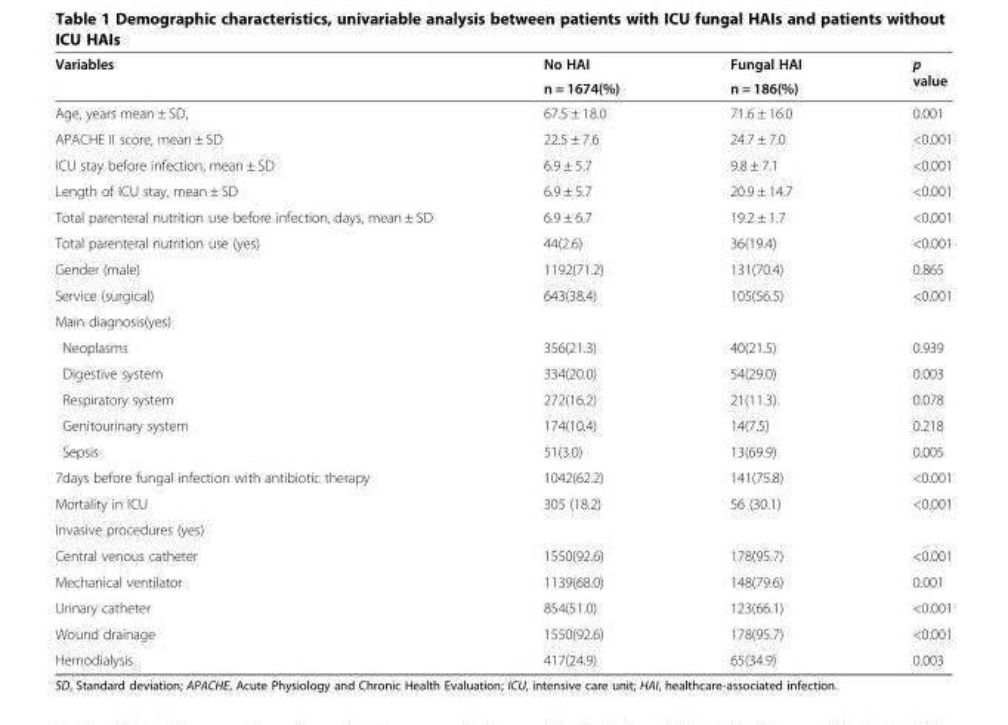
<table><thead><tr><td rowspan="2">Variables</td><td rowspan="2">No HAI n = 1674(%)</td><td rowspan="2">Fungal HAI n = 186(%)</td><td rowspan="2">p value</td></tr><tr></tr></thead><tbody><tr><td>Age, years mean ± SD,</td><td>67.5 ± 18.0</td><td>71.6 ± 16.0</td><td>0.001</td></tr><tr><td>APACHE II score, mean ± SD</td><td>22.5 ± 7.6</td><td>24.7 ± 7.0</td><td>&lt;0.001</td></tr><tr><td>ICU stay before infection, mean ± SD</td><td>6.9 ± 5.7</td><td>9.8 ± 7.1</td><td>&lt;0.001</td></tr><tr><td>Length of ICU stay, mean ± SD</td><td>6.9 ± 5.7</td><td>20.9 ± 14.7</td><td>&lt;0.001</td></tr><tr><td>Total parenteral nutrition use before infection, days, mean ± SD</td><td>6.9 ± 6.7</td><td>19.2 ± 1.7</td><td>&lt;0.001</td></tr><tr><td>Total parenteral nutrition use (yes)</td><td>44(2.6)</td><td>36(19.4)</td><td>&lt;0.001</td></tr><tr><td>Gender (male)</td><td>1192(71.2)</td><td>131(70.4)</td><td>0.865</td></tr><tr><td>Service (surgical)</td><td>643(38.4)</td><td>105(56.5)</td><td>&lt;0.001</td></tr><tr><td colspan="4">Main diagnosis(yes)</td></tr><tr><td>Neoplasms</td><td>356(21.3)</td><td>40(21.5)</td><td>0.939</td></tr><tr><td>Digestive system</td><td>334(20.0)</td><td>54(29.0)</td><td>0.003</td></tr><tr><td>Respiratory system</td><td>272(16.2)</td><td>21(11.3)</td><td>0.078</td></tr><tr><td>Genitourinary system</td><td>174(10.4)</td><td>14(7.5)</td><td>0.218</td></tr><tr><td>Sepsis</td><td>51(3.0)</td><td>13(69.9)</td><td>0.005</td></tr><tr><td>7days before fungal infection with antibiotic therapy</td><td>1042(62.2)</td><td>141(75.8)</td><td>&lt;0.001</td></tr><tr><td>Mortality in ICU</td><td>305 (18.2)</td><td>56 (30.1)</td><td>&lt;0.001</td></tr><tr><td colspan="4">Invasive procedures (yes)</td></tr><tr><td>Central venous catheter</td><td>1550(92.6)</td><td>178(95.7)</td><td>&lt;0.001</td></tr><tr><td>Mechanical ventilator</td><td>1139(68.0)</td><td>148(79.6)</td><td>0.001</td></tr><tr><td>Urinary catheter</td><td>854(51.0)</td><td>123(66.1)</td><td>&lt;0.001</td></tr><tr><td>Wound drainage</td><td>1550(92.6)</td><td>178(95.7)</td><td>&lt;0.001</td></tr><tr><td>Hemodialysis</td><td>417(24.9)</td><td>65(34.9)</td><td>0.003</td></tr></tbody></table>